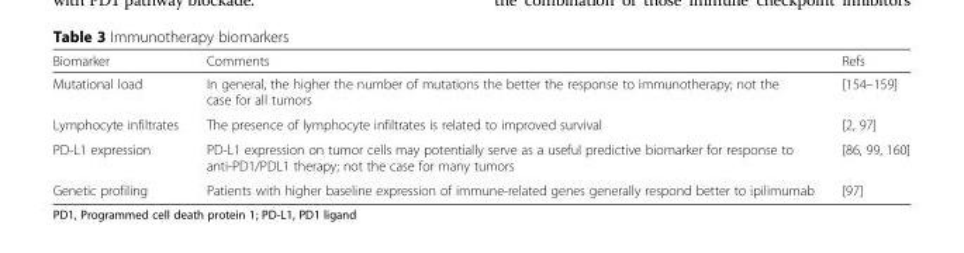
<table><thead><tr><td>Biomarker</td><td>Comments</td><td>Refs</td></tr></thead><tbody><tr><td>Mutational load</td><td>In general, the higher the number of mutations the better the response to immunotherapy; not the case for all tumors</td><td>[154–159]</td></tr><tr><td>Lymphocyte infiltrates</td><td>The presence of lymphocyte infiltrates is related to improved survival</td><td>[2, 97]</td></tr><tr><td>PD-L1 expression</td><td>PD-L1 expression on tumor cells may potentially serve as a useful predictive biomarker for response to anti-PD1/PDL1 therapy; not the case for many tumors</td><td>[86, 99, 160]</td></tr><tr><td>Genetic profiling</td><td>Patients with higher baseline expression of immune-related genes generally respond better to ipilimumab</td><td>[97]</td></tr></tbody></table>